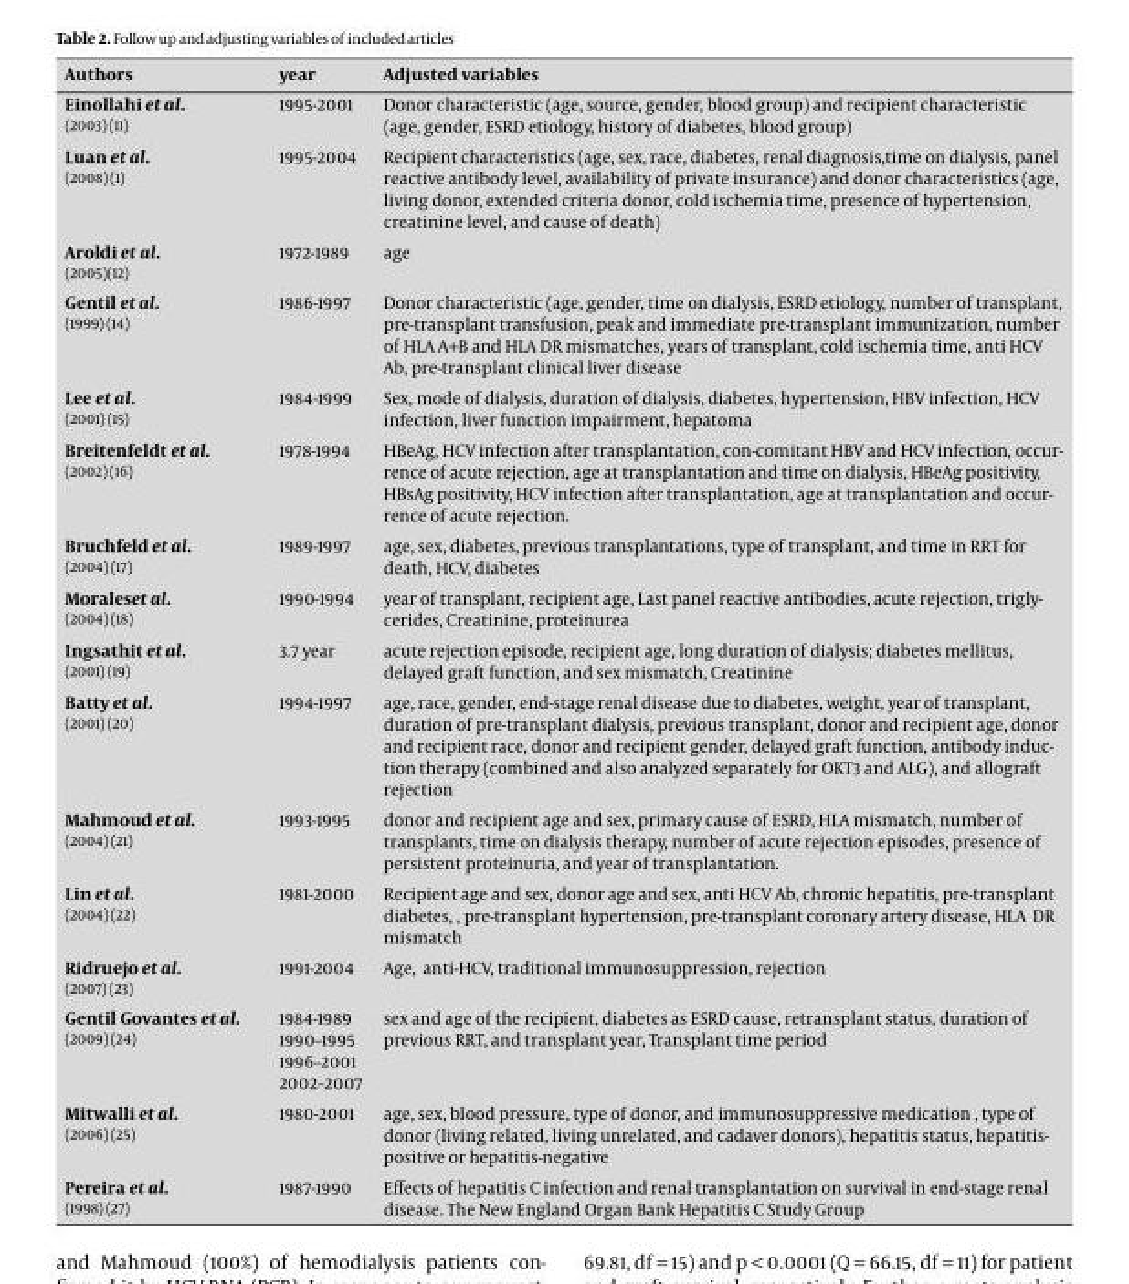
<table><thead><tr><td>Authors</td><td>year</td><td>Adjusted variables</td></tr></thead><tbody><tr><td>Einollahi et al. (2003) (11)</td><td>1995-2001</td><td>Donor characteristic (age, source, gender, blood group) and recipient characteristic (age, gender, ESRD etiology, history of diabetes, blood group)</td></tr><tr><td>Luan et al. (2008) (1)</td><td>1995-2004</td><td>Recipient characteristics (age, sex, race, diabetes, renal diagnosis,time on dialysis, panel reactive antibody level, availability of private insurance) and donor characteristics (age, living donor, extended criteria donor, cold ischemia time, presence of hypertension, creatinine level, and cause of death)</td></tr><tr><td>Aroldi et al. (2005)(12)</td><td>1972-1989</td><td>age</td></tr><tr><td>Gentil et al. (1999) (14)</td><td>1986-1997</td><td>Donor characteristic (age, gender, time on dialysis, ESRD etiology, number of transplant, pre-transplant transfusion, peak and immediate pre-transplant immunization, number of HLA A+B and HLA DR mismatches, years of transplant, cold ischemia time, anti HCV Ab, pre-transplant clinical liver disease</td></tr><tr><td>Lee et al. (2001) (15)</td><td>1984-1999</td><td>Sex, mode of dialysis, duration of dialysis, diabetes, hypertension, HBV infection, HCV infection, liver function impairment, hepatoma</td></tr><tr><td>Breitenfeldt et al. (2002) (16)</td><td>1978-1994</td><td>HBeAg, HCV infection after transplantation, con-comitant HBV and HCV infection, occur- rence of acute rejection, age at transplantation and time on dialysis, HBeAg positivity, HBsAg positivity, HCV infection after transplantation, age at transplantation and occur- rence of acute rejection.</td></tr><tr><td>Bruchfeld et al. (2004) (17)</td><td>1989-1997</td><td>age, sex, diabetes, previous transplantations, type of transplant, and time in RRT for death, HCV, diabetes</td></tr><tr><td>Moraleset al. (2004) (18)</td><td>1990-1994</td><td>year of transplant, recipient age, Last panel reactive antibodies, acute rejection, trigly- cerides, Creatinine, proteinurea</td></tr><tr><td>Ingsathit et al. (2001) (19)</td><td>3.7 year</td><td>acute rejection episode, recipient age, long duration of dialysis; diabetes mellitus, delayed graft function, and sex mismatch, Creatinine</td></tr><tr><td>Batty et al. (2001) (20)</td><td>1994-1997</td><td>age, race, gender, end-stage renal disease due to diabetes, weight, year of transplant, duration of pre-transplant dialysis, previous transplant, donor and recipient age, donor and recipient race, donor and recipient gender, delayed graft function, antibody induc- tion therapy (combined and also analyzed separately for OKT3 and ALG), and allograft rejection</td></tr><tr><td>Mahmoud et al. (2004) (21)</td><td>1993-1995</td><td>donor and recipient age and sex, primary cause of ESRD, HLA mismatch, number of transplants, time on dialysis therapy, number of acute rejection episodes, presence of persistent proteinuria, and year of transplantation.</td></tr><tr><td>Lin et al. (2004) (22)</td><td>1981-2000</td><td>Recipient age and sex, donor age and sex, anti HCV Ab, chronic hepatitis, pre-transplant diabetes, , pre-transplant hypertension, pre-transplant coronary artery disease, HLA DR mismatch</td></tr><tr><td>Ridruejo et al. (2007) (23)</td><td>1991-2004</td><td>Age, anti-HCV, traditional immunosuppression, rejection</td></tr><tr><td>Gentil Govantes et al. (2009) (24)</td><td>1984-1989 1990–1995 1996–2001 2002–2007</td><td>sex and age of the recipient, diabetes as ESRD cause, retransplant status, duration of previous RRT, and transplant year, Transplant time period</td></tr><tr><td>Mitwalli et al. (2006) (25)</td><td>1980-2001</td><td>age, sex, blood pressure, type of donor, and immunosuppressive medication , type of donor (living related, living unrelated, and cadaver donors), hepatitis status, hepatitis- positive or hepatitis-negative</td></tr><tr><td>Pereira et al. (1998) (27)</td><td>1987-1990</td><td>Effects of hepatitis C infection and renal transplantation on survival in end-stage renal disease. The New England Organ Bank Hepatitis C Study Group</td></tr></tbody></table>